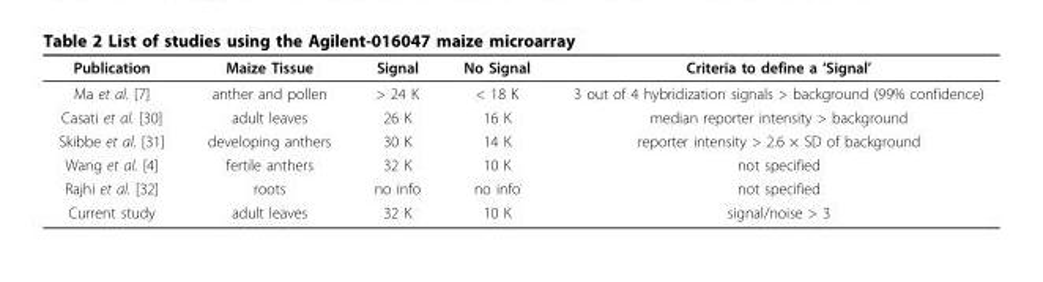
<table><thead><tr><td>Publication</td><td>Maize Tissue</td><td>Signal</td><td>No Signal</td><td>Criteria to define a ‘Signal’</td></tr></thead><tbody><tr><td>Ma et al. [7]</td><td>anther and pollen</td><td>&gt; 24 K</td><td>&lt; 18 K</td><td>3 out of 4 hybridization signals &gt; background (99% confidence)</td></tr><tr><td>Casati et al. [30]</td><td>adult leaves</td><td>26 K</td><td>16 K</td><td>median reporter intensity &gt; background</td></tr><tr><td>Skibbe et al. [31]</td><td>developing anthers</td><td>30 K</td><td>14 K</td><td>reporter intensity &gt; 2.6 × SD of background</td></tr><tr><td>Wang et al. [4]</td><td>fertile anthers</td><td>32 K</td><td>10 K</td><td>not specified</td></tr><tr><td>Rajhi et al. [32]</td><td>roots</td><td>no info</td><td>no info</td><td>not specified</td></tr><tr><td>Current study</td><td>adult leaves</td><td>32 K</td><td>10 K</td><td>signal/noise &gt; 3</td></tr></tbody></table>